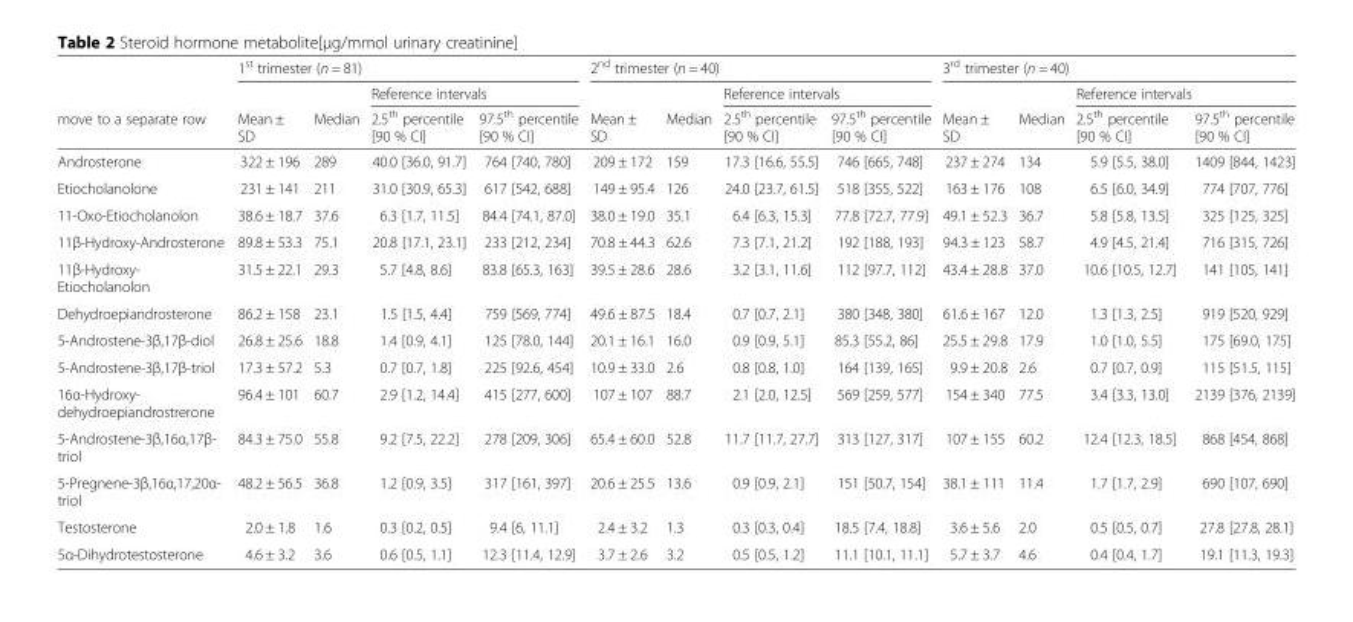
<table><thead><tr><td rowspan="3">move to a separate row</td><td colspan="4">1<sup>st</sup> trimester (n = 81)</td><td colspan="4">2<sup>nd</sup> trimester (n = 40)</td><td colspan="4">3<sup>rd</sup> trimester (n = 40)</td></tr><tr><td rowspan="2">Mean ± SD</td><td rowspan="2">Median</td><td colspan="2">Reference intervals</td><td rowspan="2">Mean ± SD</td><td rowspan="2">Median</td><td colspan="2">Reference intervals</td><td rowspan="2">Mean ± SD</td><td rowspan="2">Median</td><td colspan="2">Reference intervals</td></tr><tr><td>2.5<sup>th</sup> percentile [90 % CI]</td><td>97.5<sup>th</sup> percentile [90 % CI]</td><td>2.5<sup>th</sup> percentile [90 % CI]</td><td>97.5<sup>th</sup> percentile [90 % CI]</td><td>2.5<sup>th</sup> percentile [90 % CI]</td><td>97.5<sup>th</sup> percentile [90 % CI]</td></tr></thead><tbody><tr><td>Androsterone</td><td>322 ± 196</td><td>289</td><td>40.0 [36.0, 91.7]</td><td>764 [740, 780]</td><td>209 ± 172</td><td>159</td><td>17.3 [16.6, 55.5]</td><td>746 [665, 748]</td><td>237 ± 274</td><td>134</td><td>5.9 [5.5, 38.0]</td><td>1409 [844, 1423]</td></tr><tr><td>Etiocholanolone</td><td>231 ± 141</td><td>211</td><td>31.0 [30.9, 65.3]</td><td>617 [542, 688]</td><td>149 ± 95.4</td><td>126</td><td>24.0 [23.7, 61.5]</td><td>518 [355, 522]</td><td>163 ± 176</td><td>108</td><td>6.5 [6.0, 34.9]</td><td>774 [707, 776]</td></tr><tr><td>11-Oxo-Etiocholanolon</td><td>38.6 ± 18.7</td><td>37.6</td><td>6.3 [1.7, 11.5]</td><td>84.4 [74.1, 87.0]</td><td>38.0 ± 19.0</td><td>35.1</td><td>6.4 [6.3, 15.3]</td><td>77.8 [72.7, 77.9]</td><td>49.1 ± 52.3</td><td>36.7</td><td>5.8 [5.8, 13.5]</td><td>325 [125, 325]</td></tr><tr><td>11β-Hydroxy-Androsterone</td><td>89.8 ± 53.3</td><td>75.1</td><td>20.8 [17.1, 23.1]</td><td>233 [212, 234]</td><td>70.8 ± 44.3</td><td>62.6</td><td>7.3 [7.1, 21.2]</td><td>192 [188, 193]</td><td>94.3 ± 123</td><td>58.7</td><td>4.9 [4.5, 21.4]</td><td>716 [315, 726]</td></tr><tr><td>11β-Hydroxy- Etiocholanolon</td><td>31.5 ± 22.1</td><td>29.3</td><td>5.7 [4.8, 8.6]</td><td>83.8 [65.3, 163]</td><td>39.5 ± 28.6</td><td>28.6</td><td>3.2 [3.1, 11.6]</td><td>112 [97.7, 112]</td><td>43.4 ± 28.8</td><td>37.0</td><td>10.6 [10.5, 12.7]</td><td>141 [105, 141]</td></tr><tr><td>Dehydroepiandrosterone</td><td>86.2 ± 158</td><td>23.1</td><td>1.5 [1.5, 4.4]</td><td>759 [569, 774]</td><td>49.6 ± 87.5</td><td>18.4</td><td>0.7 [0.7, 2.1]</td><td>380 [348, 380]</td><td>61.6 ± 167</td><td>12.0</td><td>1.3 [1.3, 2.5]</td><td>919 [520, 929]</td></tr><tr><td>5-Androstene-3β,17β-diol</td><td>26.8 ± 25.6</td><td>18.8</td><td>1.4 [0.9, 4.1]</td><td>125 [78.0, 144]</td><td>20.1 ± 16.1</td><td>16.0</td><td>0.9 [0.9, 5.1]</td><td>85.3 [55.2, 86]</td><td>25.5 ± 29.8</td><td>17.9</td><td>1.0 [1.0, 5.5]</td><td>175 [69.0, 175]</td></tr><tr><td>5-Androstene-3β,17β-triol</td><td>17.3 ± 57.2</td><td>5.3</td><td>0.7 [0.7, 1.8]</td><td>225 [92.6, 454]</td><td>10.9 ± 33.0</td><td>2.6</td><td>0.8 [0.8, 1.0]</td><td>164 [139, 165]</td><td>9.9 ± 20.8</td><td>2.6</td><td>0.7 [0.7, 0.9]</td><td>115 [51.5, 115]</td></tr><tr><td>16α-Hydroxy- dehydroepiandrostrerone</td><td>96.4 ± 101</td><td>60.7</td><td>2.9 [1.2, 14.4]</td><td>415 [277, 600]</td><td>107 ± 107</td><td>88.7</td><td>2.1 [2.0, 12.5]</td><td>569 [259, 577]</td><td>154 ± 340</td><td>77.5</td><td>3.4 [3.3, 13.0]</td><td>2139 [376, 2139]</td></tr><tr><td>5-Androstene-3β,16α,17β- triol</td><td>84.3 ± 75.0</td><td>55.8</td><td>9.2 [7.5, 22.2]</td><td>278 [209, 306]</td><td>65.4 ± 60.0</td><td>52.8</td><td>11.7 [11.7, 27.7]</td><td>313 [127, 317]</td><td>107 ± 155</td><td>60.2</td><td>12.4 [12.3, 18.5]</td><td>868 [454, 868]</td></tr><tr><td>5-Pregnene-3β,16α,17,20α- triol</td><td>48.2 ± 56.5</td><td>36.8</td><td>1.2 [0.9, 3.5]</td><td>317 [161, 397]</td><td>20.6 ± 25.5</td><td>13.6</td><td>0.9 [0.9, 2.1]</td><td>151 [50.7, 154]</td><td>38.1 ± 111</td><td>11.4</td><td>1.7 [1.7, 2.9]</td><td>690 [107, 690]</td></tr><tr><td>Testosterone</td><td>2.0 ± 1.8</td><td>1.6</td><td>0.3 [0.2, 0.5]</td><td>9.4 [6, 11.1]</td><td>2.4 ± 3.2</td><td>1.3</td><td>0.3 [0.3, 0.4]</td><td>18.5 [7.4, 18.8]</td><td>3.6 ± 5.6</td><td>2.0</td><td>0.5 [0.5, 0.7]</td><td>27.8 [27.8, 28.1]</td></tr><tr><td>5α-Dihydrotestosterone</td><td>4.6 ± 3.2</td><td>3.6</td><td>0.6 [0.5, 1.1]</td><td>12.3 [11.4, 12.9]</td><td>3.7 ± 2.6</td><td>3.2</td><td>0.5 [0.5, 1.2]</td><td>11.1 [10.1, 11.1]</td><td>5.7 ± 3.7</td><td>4.6</td><td>0.4 [0.4, 1.7]</td><td>19.1 [11.3, 19.3]</td></tr></tbody></table>